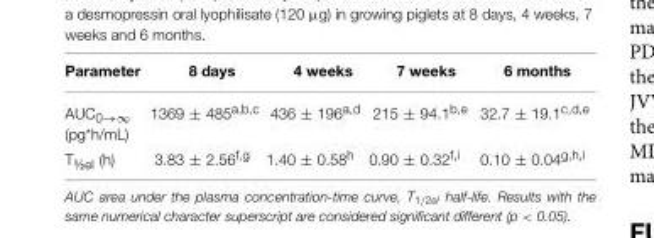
<table><thead><tr><td>Parameter</td><td>8 days</td><td>4 weeks</td><td>7 weeks</td><td>6 months</td></tr></thead><tbody><tr><td>AUC<sub>0→∞</sub> (pg*h/mL)</td><td>1369 ± 485<sup>a,b,c</sup></td><td>436 ± 196<sup>a,d</sup></td><td>215 ± 94.1<sup>b,e</sup></td><td>32.7 ± 19.1<sup>c,d,e</sup></td></tr><tr><td>T<sub>½el</sub> (h)</td><td>3.83 ± 2.56<sup>f,g</sup></td><td>1.40 ± 0.58<sup>h</sup></td><td>0.90 ± 0.32<sup>f,i</sup></td><td>0.10 ± 0.04<sup>g,h,i</sup></td></tr></tbody></table>